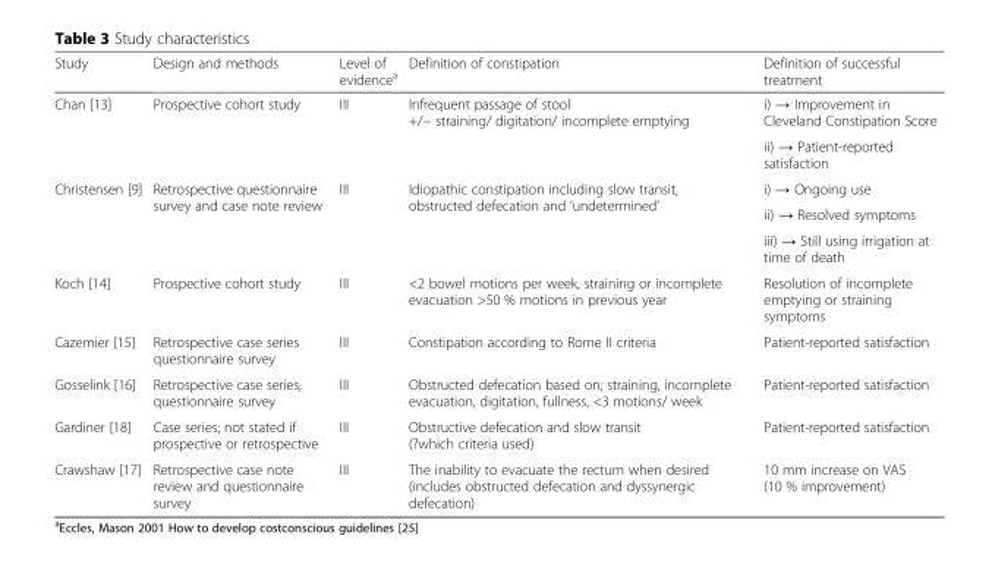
<table><thead><tr><td>Study</td><td>Design and methods</td><td>Level of evidence<sup>a</sup></td><td>Definition of constipation</td><td>Definition of successful treatment</td></tr></thead><tbody><tr><td rowspan="2">Chan [13]</td><td>Prospective cohort study</td><td>III</td><td>Infrequent passage of stool +/− straining/ digitation/ incomplete emptying</td><td>i) → Improvement in Cleveland Constipation Score</td></tr><tr><td></td><td></td><td></td><td>ii) → Patient-reported satisfaction</td></tr><tr><td rowspan="3">Christensen [9]</td><td rowspan="3">Retrospective questionnaire survey and case note review</td><td rowspan="3">III</td><td rowspan="3">Idiopathic constipation including slow transit, obstructed defecation and ‘undetermined’</td><td>i) → Ongoing use</td></tr><tr><td>ii) → Resolved symptoms</td></tr><tr><td>iii) → Still using irrigation at time of death</td></tr><tr><td>Koch [14]</td><td>Prospective cohort study</td><td>III</td><td>&lt;2 bowel motions per week, straining or incomplete evacuation &gt;50 % motions in previous year</td><td>Resolution of incomplete emptying or straining symptoms</td></tr><tr><td>Cazemier [15]</td><td>Retrospective case series questionnaire survey</td><td>III</td><td>Constipation according to Rome II criteria</td><td>Patient-reported satisfaction</td></tr><tr><td>Gosselink [16]</td><td>Retrospective case series, questionnaire survey</td><td>III</td><td>Obstructed defecation based on; straining, incomplete evacuation, digitation, fullness, &lt;3 motions/ week</td><td>Patient-reported satisfaction</td></tr><tr><td>Gardiner [18]</td><td>Case series; not stated if prospective or retrospective</td><td>III</td><td>Obstructive defecation and slow transit (?which criteria used)</td><td>Patient-reported satisfaction</td></tr><tr><td>Crawshaw [17]</td><td>Retrospective case note review and questionnaire survey</td><td>III</td><td>The inability to evacuate the rectum when desired (includes obstructed defecation and dyssynergic defecation)</td><td>10 mm increase on VAS (10 % improvement)</td></tr></tbody></table>